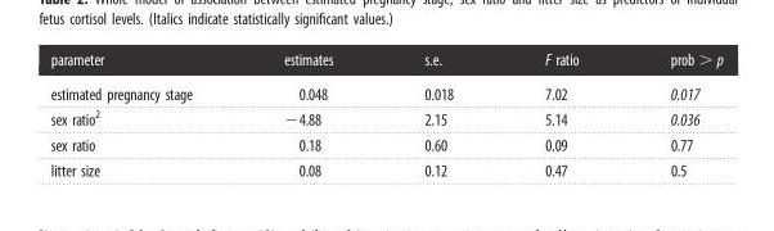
<table><thead><tr><td>parameter</td><td>estimates</td><td>s.e.</td><td>F ratio</td><td>prob &gt; p</td></tr></thead><tbody><tr><td>estimated pregnancy stage</td><td>0.048</td><td>0.018</td><td>7.02</td><td>0.017</td></tr><tr><td>sex ratio<sup>2</sup></td><td>−4.88</td><td>2.15</td><td>5.14</td><td>0.036</td></tr><tr><td>sex ratio</td><td>0.18</td><td>0.60</td><td>0.09</td><td>0.77</td></tr><tr><td>litter size</td><td>0.08</td><td>0.12</td><td>0.47</td><td>0.5</td></tr></tbody></table>